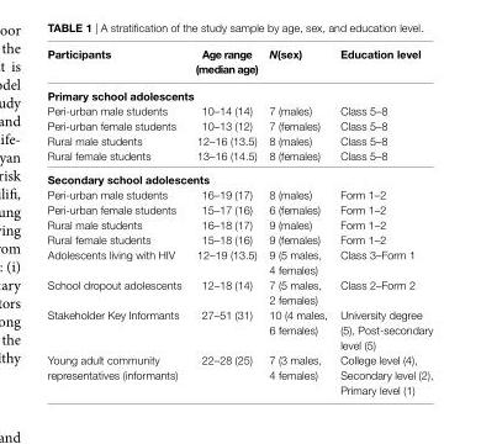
<table><thead><tr><td>Participants</td><td>age range (median age)</td><td>N(sex)</td><td>education level</td></tr></thead><tbody><tr><td colspan="4">Primary school adolescents</td></tr><tr><td>Peri-urban male students</td><td>10–14 (14)</td><td>7 (males)</td><td>Class 5–8</td></tr><tr><td>Peri-urban female students</td><td>10–13 (12)</td><td>7 (females)</td><td>Class 5–8</td></tr><tr><td>Rural male students</td><td>12–16 (13.5)</td><td>8 (males)</td><td>Class 5–8</td></tr><tr><td>Rural female students</td><td>13–16 (14.5)</td><td>8 (females)</td><td>Class 5–8</td></tr><tr><td colspan="4">secondary school adolescents</td></tr><tr><td>Peri-urban male students</td><td>16–19 (17)</td><td>8 (males)</td><td>Form 1–2</td></tr><tr><td>Peri-urban female students</td><td>15–17 (16)</td><td>6 (females)</td><td>Form 1–2</td></tr><tr><td>Rural male students</td><td>16–18 (17)</td><td>9 (males)</td><td>Form 1–2</td></tr><tr><td>Rural female students</td><td>15–18 (16)</td><td>9 (females)</td><td>Form 1–2</td></tr><tr><td>Adolescents living with HIV</td><td>12–19 (13.5)</td><td>9 (5 males, 4 females)</td><td>Class 3–Form 1</td></tr><tr><td>School dropout adolescents</td><td>12–18 (14)</td><td>7 (5 males, 2 females)</td><td>Class 2–Form 2</td></tr><tr><td>Stakeholder Key Informants</td><td>27–51 (31)</td><td>10 (4 males, 6 females)</td><td>University degree (5), Post-secondary level (5)</td></tr><tr><td>Young adult community representatives (informants)</td><td>22–28 (25)</td><td>7 (3 males, 4 females)</td><td>College level (4), Secondary level (2), Primary level (1)</td></tr></tbody></table>